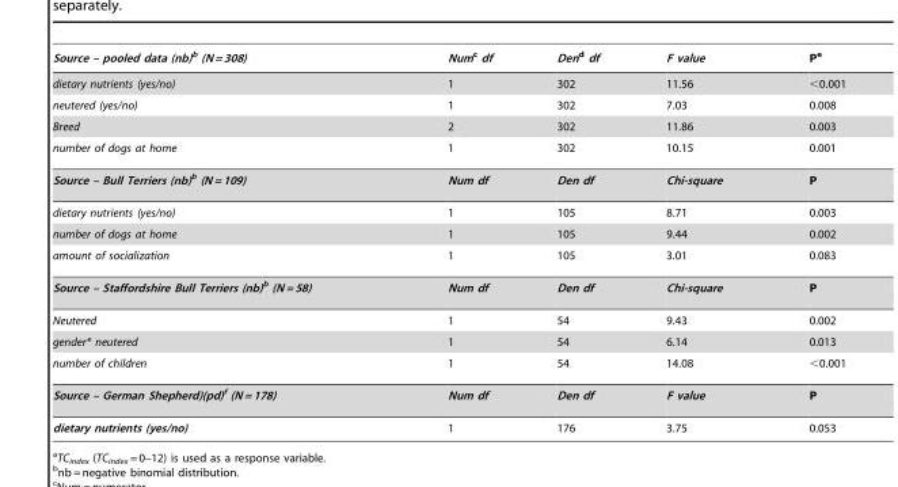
<table><thead><tr><td>Source – pooled data (nb)b (N = 308)</td><td>Numc df</td><td>Dend df</td><td>F value</td><td>P<sup>e</sup></td></tr></thead><tbody><tr><td>dietary nutrients (yes/no)</td><td>1</td><td>302</td><td>11.56</td><td>&lt;0.001</td></tr><tr><td>neutered (yes/no)</td><td>1</td><td>302</td><td>7.03</td><td>0.008</td></tr><tr><td>Breed</td><td>2</td><td>302</td><td>11.86</td><td>0.003</td></tr><tr><td>number of dogs at home</td><td>1</td><td>302</td><td>10.15</td><td>0.001</td></tr><tr><td>Source – Bull Terriers (nb)b (N = 109)</td><td>Num df</td><td>Den df</td><td>Chi-square</td><td>P</td></tr><tr><td>dietary nutrients (yes/no)</td><td>1</td><td>105</td><td>8.71</td><td>0.003</td></tr><tr><td>number of dogs at home</td><td>1</td><td>105</td><td>9.44</td><td>0.002</td></tr><tr><td>amount of socialization</td><td>1</td><td>105</td><td>3.01</td><td>0.083</td></tr><tr><td>Source – Staffordshire Bull Terriers (nb)b (N = 58)</td><td>Num df</td><td>Den df</td><td>Chi-square</td><td>P</td></tr><tr><td>Neutered</td><td>1</td><td>54</td><td>9.43</td><td>0.002</td></tr><tr><td>gender* neutered</td><td>1</td><td>54</td><td>6.14</td><td>0.013</td></tr><tr><td>number of children</td><td>1</td><td>54</td><td>14.08</td><td>&lt;0.001</td></tr><tr><td>Source – German Shepherd)(pd)f (N = 178)</td><td>Num df</td><td>Den df</td><td>F value</td><td>P</td></tr><tr><td>dietary nutrients (yes/no)</td><td>1</td><td>176</td><td>3.75</td><td>0.053</td></tr></tbody></table>